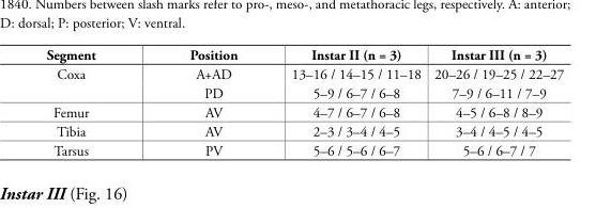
<table><tbody><tr><td>Segment</td><td>Position</td><td>Instar II (n = 3)</td><td>Instar III (n = 3)</td></tr><tr><td rowspan="2">Coxa</td><td>A+AD</td><td>13–16 / 14–15 / 11–18</td><td>20–26 / 19–25 / 22–27</td></tr><tr><td>PD</td><td>5–9 / 6–7 / 6–8</td><td>7–9 / 6–11 / 7–9</td></tr><tr><td>Femur</td><td>AV</td><td>4–7 / 6–7 / 6–8</td><td>4–5 / 6–8 / 8–9</td></tr><tr><td>Tibia</td><td>AV</td><td>2–3 / 3–4 / 4–5</td><td>3–4 / 4–5 / 4–5</td></tr><tr><td>Tarsus</td><td>PV</td><td>5–6 / 5–6 / 6–7</td><td>5–6 / 6–7 / 7</td></tr></tbody></table>